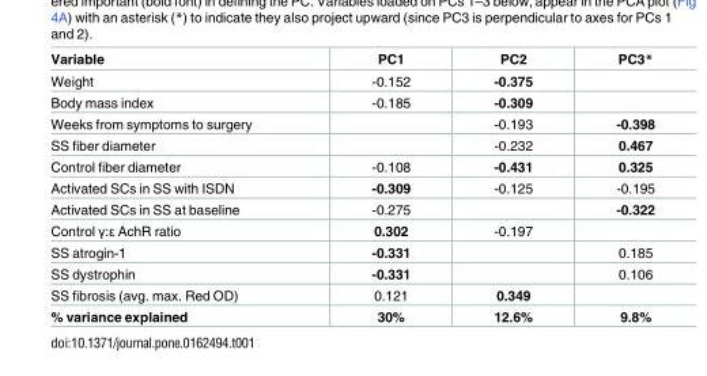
<table><thead><tr><td>Variable</td><td>PC1</td><td>PC2</td><td>PC3*</td></tr></thead><tbody><tr><td>Weight</td><td>-0.152</td><td>-0.375</td><td></td></tr><tr><td>Body mass index</td><td>-0.185</td><td>-0.309</td><td></td></tr><tr><td>Weeks from symptoms to surgery</td><td></td><td>-0.193</td><td>-0.398</td></tr><tr><td>SS fiber diameter</td><td></td><td>-0.232</td><td>0.467</td></tr><tr><td>Control fiber diameter</td><td>-0.108</td><td>-0.431</td><td>0.325</td></tr><tr><td>Activated SCs in SS with ISDN</td><td>-0.309</td><td>-0.125</td><td>-0.195</td></tr><tr><td>Activated SCs in SS at baseline</td><td>-0.275</td><td></td><td>-0.322</td></tr><tr><td>Control γ:ε AchR ratio</td><td>0.302</td><td>-0.197</td><td></td></tr><tr><td>SS atrogin-1</td><td>-0.331</td><td></td><td>0.185</td></tr><tr><td>SS dystrophin</td><td>-0.331</td><td></td><td>0.106</td></tr><tr><td>SS fibrosis (avg. max. Red OD)</td><td>0.121</td><td>0.349</td><td></td></tr><tr><td>% variance explained</td><td>30%</td><td>12.6%</td><td>9.8%</td></tr></tbody></table>